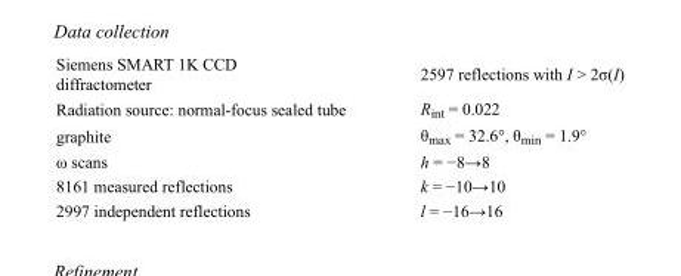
<table><tbody><tr><td>Siemens SMART 1K CCD diffractometer</td><td>2597 reflections with I &gt; 2σ(I)</td></tr><tr><td>Radiation source: normal-focus sealed tube</td><td>R<sub>int</sub> = 0.022</td></tr><tr><td>graphite</td><td>θ<sub>max</sub> = 32.6°, θ<sub>min</sub> = 1.9°</td></tr><tr><td>ω scans</td><td>h = −8→8</td></tr><tr><td>8161 measured reflections</td><td>k = −10→10</td></tr><tr><td>2997 independent reflections</td><td>l = −16→16</td></tr></tbody></table>